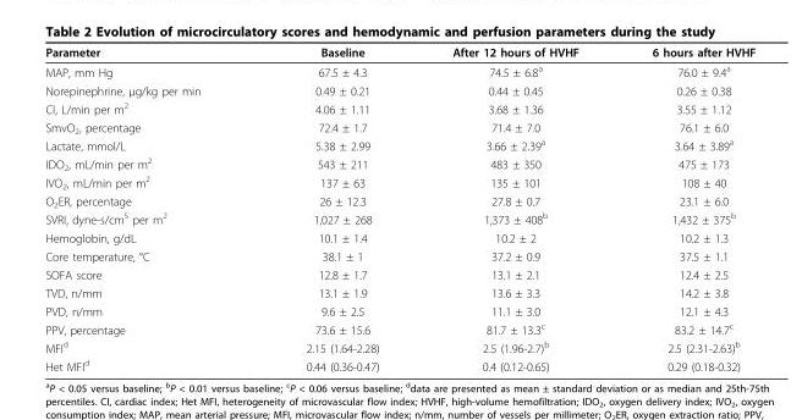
<table><thead><tr><td>Parameter</td><td>Baseline</td><td>After 12 hours of HVHF</td><td>6 hours after HVHF</td></tr></thead><tbody><tr><td>MAP, mm Hg</td><td>67.5 ± 4.3</td><td>74.5 ± 6.8<sup>a</sup></td><td>76.0 ± 9.4<sup>a</sup></td></tr><tr><td>Norepinephrine, μg/kg per min</td><td>0.49 ± 0.21</td><td>0.44 ± 0.45</td><td>0.26 ± 0.38</td></tr><tr><td>CI, L/min per m<sup>2</sup></td><td>4.06 ± 1.11</td><td>3.68 ± 1.36</td><td>3.55 ± 1.12</td></tr><tr><td>SmvO<sub>2</sub>, percentage</td><td>72.4 ± 1.7</td><td>71.4 ± 7.0</td><td>76.1 ± 6.0</td></tr><tr><td>Lactate, mmol/L</td><td>5.38 ± 2.99</td><td>3.66 ± 2.39<sup>a</sup></td><td>3.64 ± 3.89<sup>a</sup></td></tr><tr><td>IDO<sub>2</sub>, mL/min per m<sup>2</sup></td><td>543 ± 211</td><td>483 ± 350</td><td>475 ± 173</td></tr><tr><td>IVO<sub>2</sub>, mL/min per m<sup>2</sup></td><td>137 ± 63</td><td>135 ± 101</td><td>108 ± 40</td></tr><tr><td>O<sub>2</sub>ER, percentage</td><td>26 ± 12.3</td><td>27.8 ± 0.7</td><td>23.1 ± 6.0</td></tr><tr><td>SVRI, dyne-s/cm<sup>5</sup> per m<sup>2</sup></td><td>1,027 ± 268</td><td>1,373 ± 408<sup>b</sup></td><td>1,432 ± 375<sup>b</sup></td></tr><tr><td>Hemoglobin, g/dL</td><td>10.1 ± 1.4</td><td>10.2 ± 2</td><td>10.2 ± 1.3</td></tr><tr><td>Core temperature, °C</td><td>38.1 ± 1</td><td>37.2 ± 0.9</td><td>37.5 ± 1.1</td></tr><tr><td>SOFA score</td><td>12.8 ± 1.7</td><td>13.1 ± 2.1</td><td>12.4 ± 2.5</td></tr><tr><td>TVD, n/mm</td><td>13.1 ± 1.9</td><td>13.6 ± 3.3</td><td>14.2 ± 3.8</td></tr><tr><td>PVD, n/mm</td><td>9.6 ± 2.5</td><td>11.1 ± 3.0</td><td>12.1 ± 4.3</td></tr><tr><td>PPV, percentage</td><td>73.6 ± 15.6</td><td>81.7 ± 13.3<sup>c</sup></td><td>83.2 ± 14.7<sup>c</sup></td></tr><tr><td>MFI<sup>d</sup></td><td>2.15 (1.64-2.28)</td><td>2.5 (1.96-2.7)<sup>b</sup></td><td>2.5 (2.31-2.63)<sup>b</sup></td></tr><tr><td>Het MFI<sup>d</sup></td><td>0.44 (0.36-0.47)</td><td>0.4 (0.12-0.65)</td><td>0.29 (0.18-0.32)</td></tr></tbody></table>